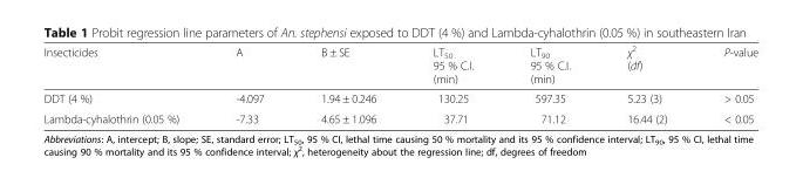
<table><thead><tr><td>Insecticides</td><td>A</td><td>B ± SE</td><td>LT<sub>50</sub> 95 % C.I. (min)</td><td>LT<sub>90</sub> 95 % C.I. (min)</td><td>χ<sup>2</sup> (df)</td><td>P-value</td></tr></thead><tbody><tr><td>DDT (4 %)</td><td>-4.097</td><td>1.94 ± 0.246</td><td>130.25</td><td>597.35</td><td>5.23 (3)</td><td>&gt; 0.05</td></tr><tr><td>Lambda-cyhalothrin (0.05 %)</td><td>-7.33</td><td>4.65 ± 1.096</td><td>37.71</td><td>71.12</td><td>16.44 (2)</td><td>&lt; 0.05</td></tr></tbody></table>